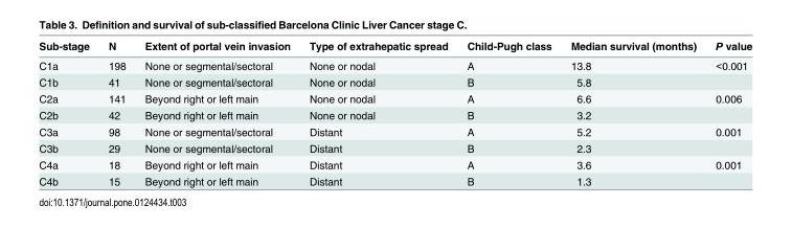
<table><thead><tr><td>Sub-stage</td><td>N</td><td>Extent of portal vein invasion</td><td>Type of extrahepatic spread</td><td>Child-Pugh class</td><td>Median survival (months)</td><td>P value</td></tr></thead><tbody><tr><td>C1a</td><td>198</td><td>None or segmental/sectoral</td><td>None or nodal</td><td>A</td><td>13.8</td><td>&lt;0.001</td></tr><tr><td>C1b</td><td>41</td><td>None or segmental/sectoral</td><td>None or nodal</td><td>B</td><td>5.8</td><td></td></tr><tr><td>C2a</td><td>141</td><td>Beyond right or left main</td><td>None or nodal</td><td>A</td><td>6.6</td><td>0.006</td></tr><tr><td>C2b</td><td>42</td><td>Beyond right or left main</td><td>None or nodal</td><td>B</td><td>3.2</td><td></td></tr><tr><td>C3a</td><td>98</td><td>None or segmental/sectoral</td><td>Distant</td><td>A</td><td>5.2</td><td>0.001</td></tr><tr><td>C3b</td><td>29</td><td>None or segmental/sectoral</td><td>Distant</td><td>B</td><td>2.3</td><td></td></tr><tr><td>C4a</td><td>18</td><td>Beyond right or left main</td><td>Distant</td><td>A</td><td>3.6</td><td>0.001</td></tr><tr><td>C4b</td><td>15</td><td>Beyond right or left main</td><td>Distant</td><td>B</td><td>1.3</td><td></td></tr></tbody></table>